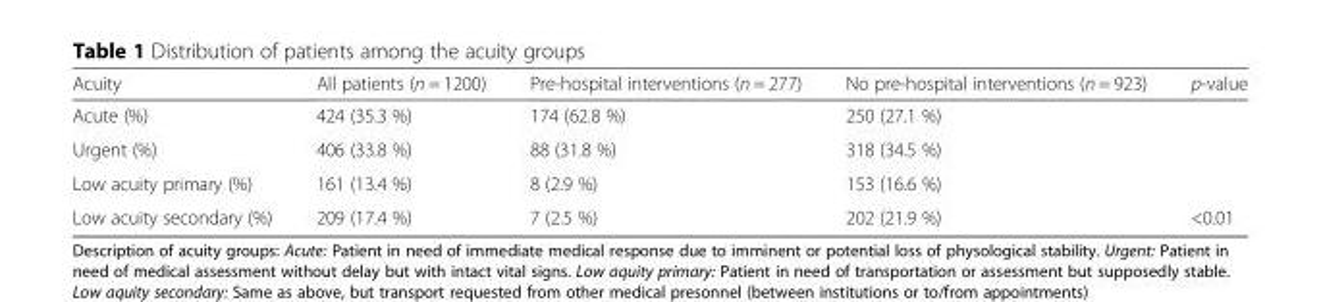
<table><thead><tr><td>Acuity</td><td>All patients (n = 1200)</td><td>Pre-hospital interventions (n = 277)</td><td>No pre-hospital interventions (n = 923)</td><td>p-value</td></tr></thead><tbody><tr><td>Acute (%)</td><td>424 (35.3 %)</td><td>174 (62.8 %)</td><td>250 (27.1 %)</td><td></td></tr><tr><td>Urgent (%)</td><td>406 (33.8 %)</td><td>88 (31.8 %)</td><td>318 (34.5 %)</td><td></td></tr><tr><td>Low acuity primary (%)</td><td>161 (13.4 %)</td><td>8 (2.9 %)</td><td>153 (16.6 %)</td><td></td></tr><tr><td>Low acuity secondary (%)</td><td>209 (17.4 %)</td><td>7 (2.5 %)</td><td>202 (21.9 %)</td><td>&lt;0.01</td></tr></tbody></table>